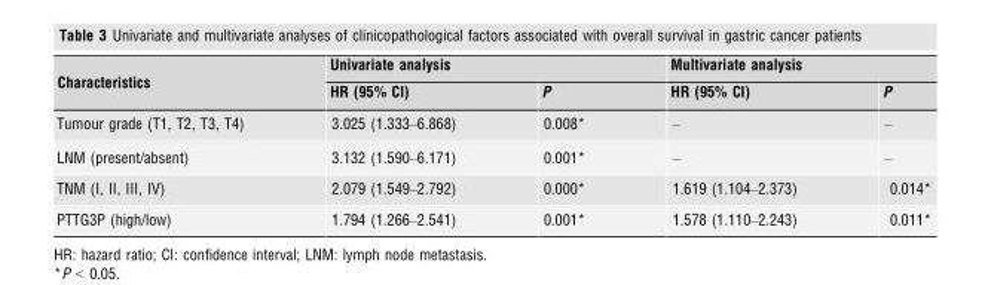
<table><thead><tr><td rowspan="2">Characteristics</td><td colspan="2">Univariate analysis</td><td colspan="2">Multivariate analysis</td></tr><tr><td>HR (95% CI)</td><td>P</td><td>HR (95% CI)</td><td>P</td></tr></thead><tbody><tr><td>Tumour grade (T1, T2, T3, T4)</td><td>3.025 (1.333–6.868)</td><td>0.008*</td><td>–</td><td>–</td></tr><tr><td>LNM (present/absent)</td><td>3.132 (1.590–6.171)</td><td>0.001*</td><td>–</td><td>–</td></tr><tr><td>TNM (I, II, III, IV)</td><td>2.079 (1.549–2.792)</td><td>0.000*</td><td>1.619 (1.104–2.373)</td><td>0.014*</td></tr><tr><td>PTTG3P (high/low)</td><td>1.794 (1.266–2.541)</td><td>0.001*</td><td>1.578 (1.110–2.243)</td><td>0.011*</td></tr></tbody></table>